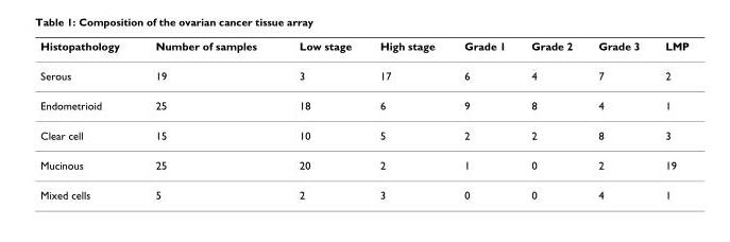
<table><thead><tr><td>Histopathology</td><td>Number of samples</td><td>Low stage</td><td>High stage</td><td>Grade 1</td><td>Grade 2</td><td>Grade 3</td><td>LMP</td></tr></thead><tbody><tr><td>Serous</td><td>19</td><td>3</td><td>17</td><td>6</td><td>4</td><td>7</td><td>2</td></tr><tr><td>Endometrioid</td><td>25</td><td>18</td><td>6</td><td>9</td><td>8</td><td>4</td><td>1</td></tr><tr><td>Clear cell</td><td>15</td><td>10</td><td>5</td><td>2</td><td>2</td><td>8</td><td>3</td></tr><tr><td>Mucinous</td><td>25</td><td>20</td><td>2</td><td>1</td><td>0</td><td>2</td><td>19</td></tr><tr><td>Mixed cells</td><td>5</td><td>2</td><td>3</td><td>0</td><td>0</td><td>4</td><td>1</td></tr></tbody></table>